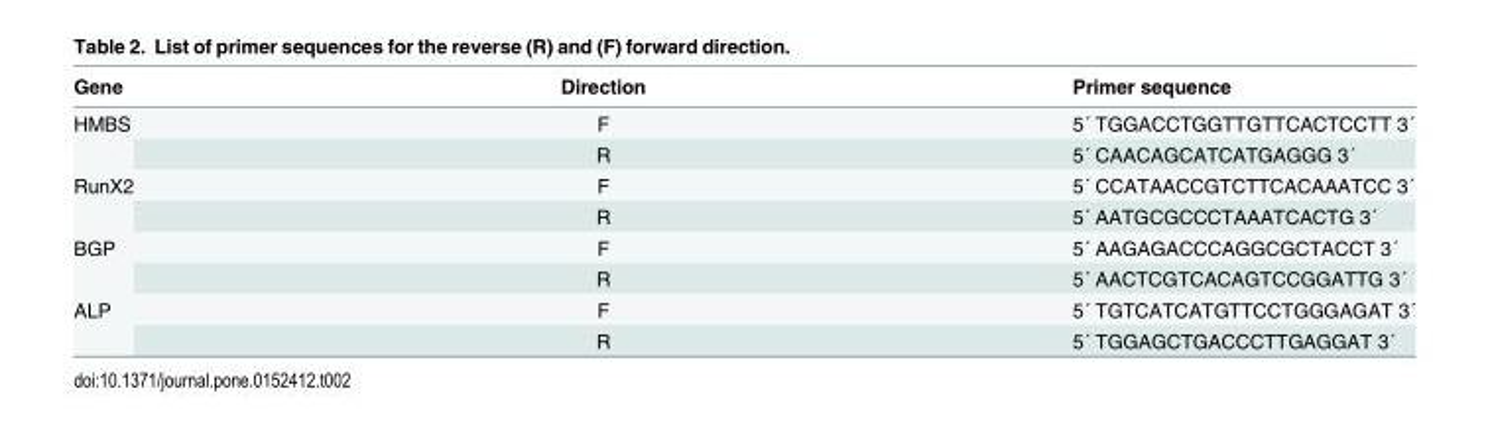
<table><thead><tr><td>Gene</td><td>Direction</td><td>Primer sequence</td></tr></thead><tbody><tr><td rowspan="2">HMBS</td><td>F</td><td>5´ TGGACCTGGTTGTTCACTCCTT 3´</td></tr><tr><td>R</td><td>5´ CAACAGCATCATGAGGG 3´</td></tr><tr><td rowspan="2">RunX2</td><td>F</td><td>5´ CCATAACCGTCTTCACAAATCC 3´</td></tr><tr><td>R</td><td>5´ AATGCGCCCTAAATCACTG 3´</td></tr><tr><td rowspan="2">BGP</td><td>F</td><td>5´ AAGAGACCCAGGCGCTACCT 3´</td></tr><tr><td>R</td><td>5´ AACTCGTCACAGTCCGGATTG 3´</td></tr><tr><td rowspan="2">ALP</td><td>F</td><td>5´ TGTCATCATGTTCCTGGGAGAT 3´</td></tr><tr><td>R</td><td>5´ TGGAGCTGACCCTTGAGGAT 3´</td></tr></tbody></table>